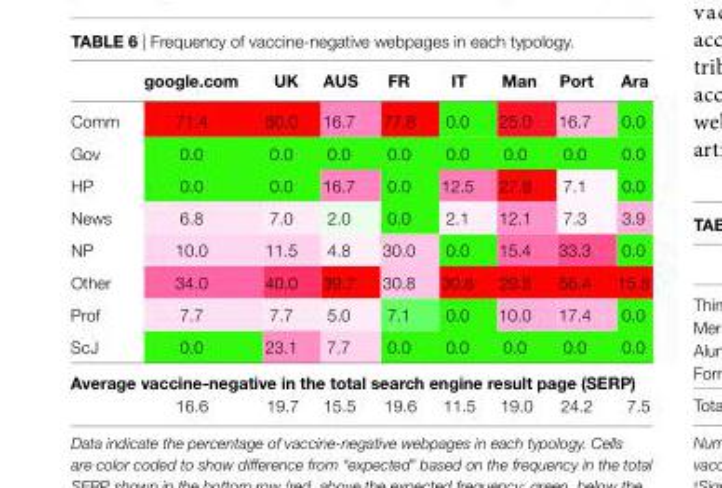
<table><thead><tr><td></td><td>google.com</td><td>UK</td><td>aUs</td><td>Fr</td><td>iT</td><td>Man</td><td>Port</td><td>ara</td></tr></thead><tbody><tr><td>Comm</td><td>71.4</td><td>60.0</td><td>16.7</td><td>77.8</td><td>0.0</td><td>25.0</td><td>16.7</td><td>0.0</td></tr><tr><td>Gov</td><td>0.0</td><td>0.0</td><td>0.0</td><td>0.0</td><td>0.0</td><td>0.0</td><td>0.0</td><td>0.0</td></tr><tr><td>HP</td><td>0.0</td><td>0.0</td><td>16.7</td><td>0.0</td><td>12.5</td><td>27.8</td><td>7.1</td><td>0.0</td></tr><tr><td>News</td><td>6.8</td><td>7.0</td><td>2.0</td><td>0.0</td><td>2.1</td><td>12.1</td><td>7.3</td><td>3.9</td></tr><tr><td>NP</td><td>10.0</td><td>11.5</td><td>4.8</td><td>30.0</td><td>0.0</td><td>15.4</td><td>33.3</td><td>0.0</td></tr><tr><td>Other</td><td>34.0</td><td>40.0</td><td>39.7</td><td>30.8</td><td>30.6</td><td>29.8</td><td>56.4</td><td>15.8</td></tr><tr><td>Prof</td><td>7.7</td><td>7.7</td><td>5.0</td><td>7.1</td><td>0.0</td><td>10.0</td><td>17.4</td><td>0.0</td></tr><tr><td>ScJ</td><td>0.0</td><td>23.1</td><td>7.7</td><td>0.0</td><td>0.0</td><td>0.0</td><td>0.0</td><td>0.0</td></tr><tr><td colspan="9">average vaccine-negative in the total search engine result page (serP)</td></tr><tr><td></td><td>16.6</td><td>19.7</td><td>15.5</td><td>19.6</td><td>11.5</td><td>19.0</td><td>24.2</td><td>7.5</td></tr></tbody></table>